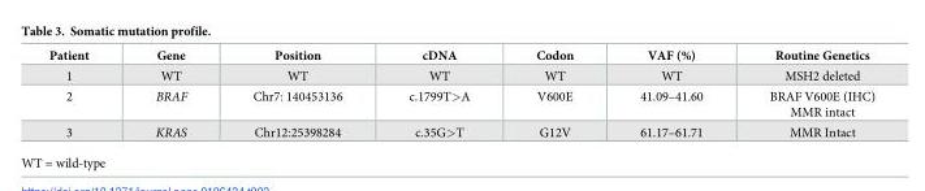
<table><thead><tr><td>Patient</td><td>Gene</td><td>Position</td><td>cDNA</td><td>Codon</td><td>VAF (%)</td><td>Routine Genetics</td></tr></thead><tbody><tr><td>1</td><td>WT</td><td>WT</td><td>WT</td><td>WT</td><td>WT</td><td>MSH2 deleted</td></tr><tr><td>2</td><td>BRAF</td><td>Chr7: 140453136</td><td>c.1799T&gt;A</td><td>V600E</td><td>41.09–41.60</td><td>BRAF V600E (IHC) MMR intact</td></tr><tr><td>3</td><td>KRAS</td><td>Chr12:25398284</td><td>c.35G&gt;T</td><td>G12V</td><td>61.17–61.71</td><td>MMR Intact</td></tr></tbody></table>